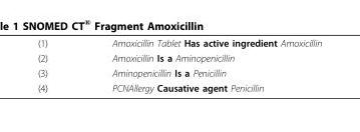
<table><tbody><tr><td>(1)</td><td>Amoxicillin Tablet Has active ingredient Amoxicillin</td></tr><tr><td>(2)</td><td>Amoxicillin Is a Aminopenicillin</td></tr><tr><td>(3)</td><td>Aminopenicillin Is a Penicillin</td></tr><tr><td>(4)</td><td>PCNAllergy Causative agent Penicillin</td></tr></tbody></table>